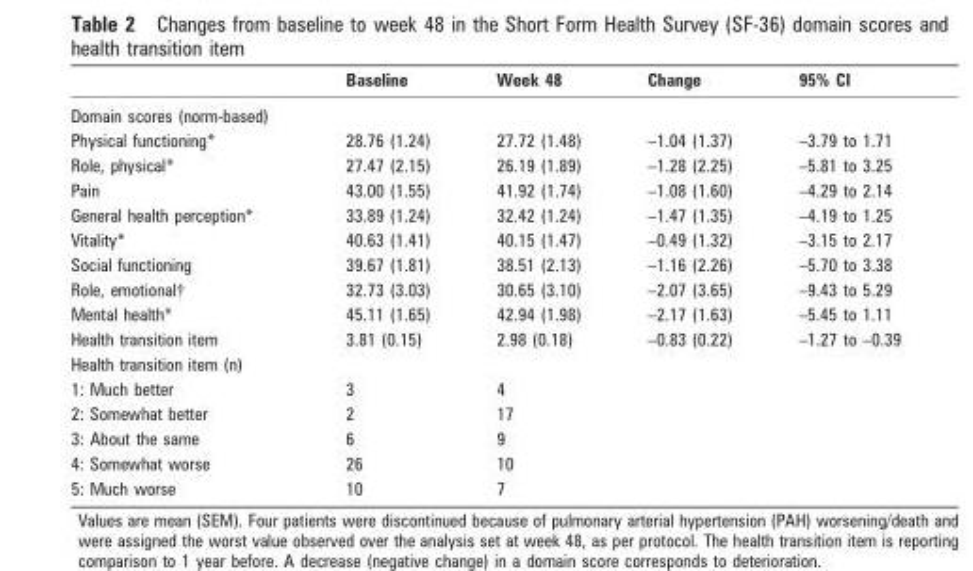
<table><thead><tr><td></td><td>Baseline</td><td>Week 48</td><td>Change</td><td>95% CI</td></tr></thead><tbody><tr><td colspan="5">Domain scores (norm-based)</td></tr><tr><td>Physical functioning*</td><td>28.76 (1.24)</td><td>27.72 (1.48)</td><td>–1.04 (1.37)</td><td>–3.79 to 1.71</td></tr><tr><td>Role, physical*</td><td>27.47 (2.15)</td><td>26.19 (1.89)</td><td>–1.28 (2.25)</td><td>–5.81 to 3.25</td></tr><tr><td>Pain</td><td>43.00 (1.55)</td><td>41.92 (1.74)</td><td>–1.08 (1.60)</td><td>–4.29 to 2.14</td></tr><tr><td>General health perception*</td><td>33.89 (1.24)</td><td>32.42 (1.24)</td><td>–1.47 (1.35)</td><td>–4.19 to 1.25</td></tr><tr><td>Vitality*</td><td>40.63 (1.41)</td><td>40.15 (1.47)</td><td>–0.49 (1.32)</td><td>–3.15 to 2.17</td></tr><tr><td>Social functioning</td><td>39.67 (1.81)</td><td>38.51 (2.13)</td><td>–1.16 (2.26)</td><td>–5.70 to 3.38</td></tr><tr><td>Role, emotional†</td><td>32.73 (3.03)</td><td>30.65 (3.10)</td><td>–2.07 (3.65)</td><td>–9.43 to 5.29</td></tr><tr><td>Mental health*</td><td>45.11 (1.65)</td><td>42.94 (1.98)</td><td>–2.17 (1.63)</td><td>–5.45 to 1.11</td></tr><tr><td>Health transition item</td><td>3.81 (0.15)</td><td>2.98 (0.18)</td><td>–0.83 (0.22)</td><td>–1.27 to –0.39</td></tr><tr><td colspan="5">Health transition item (n)</td></tr><tr><td>1: Much better</td><td>3</td><td>4</td><td></td><td></td></tr><tr><td>2: Somewhat better</td><td>2</td><td>17</td><td></td><td></td></tr><tr><td>3: About the same</td><td>6</td><td>9</td><td></td><td></td></tr><tr><td>4: Somewhat worse</td><td>26</td><td>10</td><td></td><td></td></tr><tr><td>5: Much worse</td><td>10</td><td>7</td><td></td><td></td></tr></tbody></table>